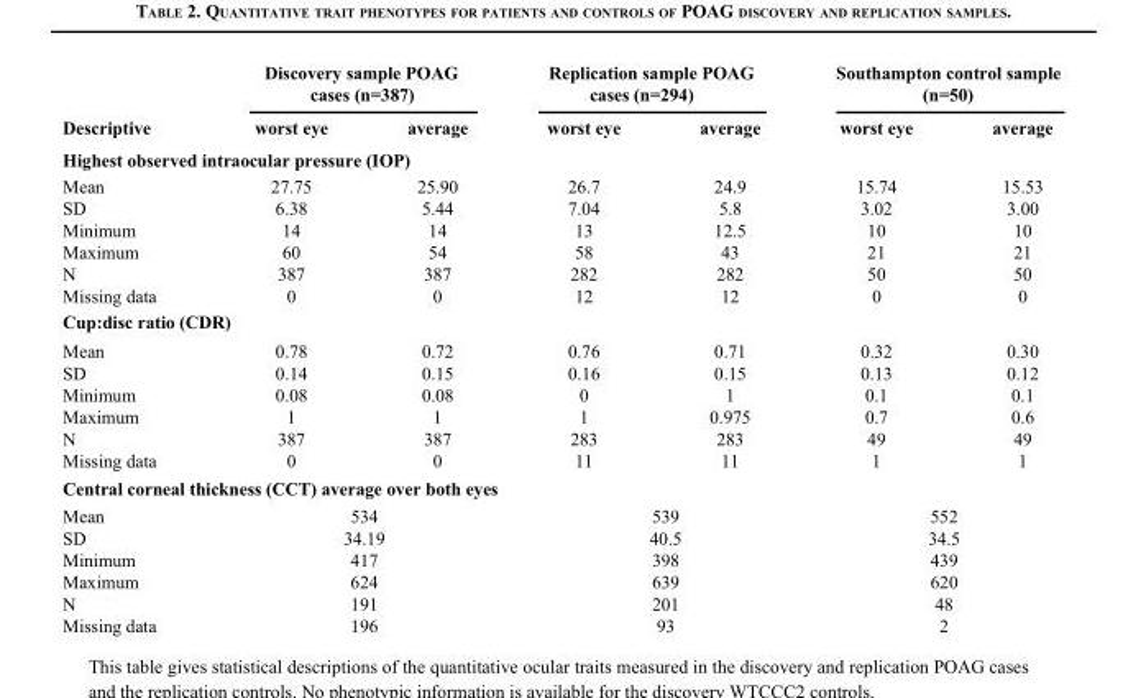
<table><thead><tr><td rowspan="2">Descriptive</td><td colspan="2">Discovery sample POAG cases (n=387)</td><td colspan="2">Replication sample POAG cases (n=294)</td><td colspan="2">Southampton control sample (n=50)</td></tr><tr><td>worst eye</td><td>average</td><td>worst eye</td><td>average</td><td>worst eye</td><td>average</td></tr></thead><tbody><tr><td colspan="7">Highest observed intraocular pressure (IOP)</td></tr><tr><td>Mean</td><td>27.75</td><td>25.90</td><td>26.7</td><td>24.9</td><td>15.74</td><td>15.53</td></tr><tr><td>SD</td><td>6.38</td><td>5.44</td><td>7.04</td><td>5.8</td><td>3.02</td><td>3.00</td></tr><tr><td>Minimum</td><td>14</td><td>14</td><td>13</td><td>12.5</td><td>10</td><td>10</td></tr><tr><td>Maximum</td><td>60</td><td>54</td><td>58</td><td>43</td><td>21</td><td>21</td></tr><tr><td>N</td><td>387</td><td>387</td><td>282</td><td>282</td><td>50</td><td>50</td></tr><tr><td>Missing data</td><td>0</td><td>0</td><td>12</td><td>12</td><td>0</td><td>0</td></tr><tr><td colspan="7">Cup:disc ratio (CDR)</td></tr><tr><td>Mean</td><td>0.78</td><td>0.72</td><td>0.76</td><td>0.71</td><td>0.32</td><td>0.30</td></tr><tr><td>SD</td><td>0.14</td><td>0.15</td><td>0.16</td><td>0.15</td><td>0.13</td><td>0.12</td></tr><tr><td>Minimum</td><td>0.08</td><td>0.08</td><td>0</td><td>1</td><td>0.1</td><td>0.1</td></tr><tr><td>Maximum</td><td>1</td><td>1</td><td>1</td><td>0.975</td><td>0.7</td><td>0.6</td></tr><tr><td>N</td><td>387</td><td>387</td><td>283</td><td>283</td><td>49</td><td>49</td></tr><tr><td>Missing data</td><td>0</td><td>0</td><td>11</td><td>11</td><td>1</td><td>1</td></tr><tr><td colspan="7">Central corneal thickness (CCT) average over both eyes</td></tr><tr><td>Mean</td><td colspan="2">534</td><td colspan="2">539</td><td colspan="2">552</td></tr><tr><td>SD</td><td colspan="2">34.19</td><td colspan="2">40.5</td><td colspan="2">34.5</td></tr><tr><td>Minimum</td><td colspan="2">417</td><td colspan="2">398</td><td colspan="2">439</td></tr><tr><td>Maximum</td><td colspan="2">624</td><td colspan="2">639</td><td colspan="2">620</td></tr><tr><td>N</td><td colspan="2">191</td><td colspan="2">201</td><td colspan="2">48</td></tr><tr><td>Missing data</td><td colspan="2">196</td><td colspan="2">93</td><td colspan="2">2</td></tr></tbody></table>